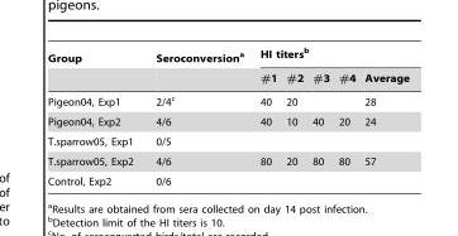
<table><thead><tr><td rowspan="2">Group</td><td rowspan="2">Seroconversion<sup>a</sup></td><td colspan="5">HI titers<sup>b</sup></td></tr><tr><td>#1</td><td>#2</td><td>#3</td><td>#4</td><td>Average</td></tr></thead><tbody><tr><td>Pigeon04, Exp1</td><td>2/4<sup>c</sup></td><td>40</td><td>20</td><td></td><td></td><td>28</td></tr><tr><td>Pigeon04, Exp2</td><td>4/6</td><td>40</td><td>10</td><td>40</td><td>20</td><td>24</td></tr><tr><td>T.sparrow05, Exp1</td><td>0/5</td><td></td><td></td><td></td><td></td><td></td></tr><tr><td>T.sparrow05, Exp2</td><td>4/6</td><td>80</td><td>20</td><td>80</td><td>80</td><td>57</td></tr><tr><td>Control, Exp2</td><td>0/6</td><td></td><td></td><td></td><td></td><td></td></tr></tbody></table>